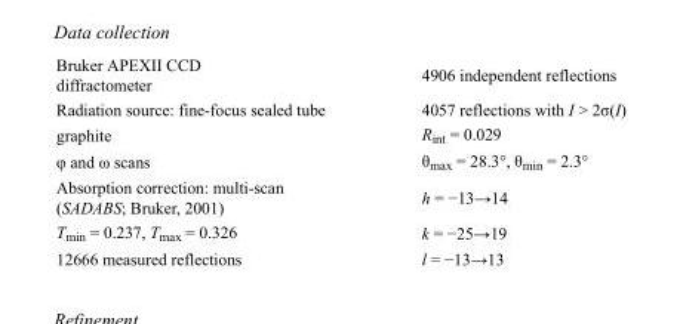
<table><tbody><tr><td>Bruker APEXII CCD diffractometer</td><td>4906 independent reflections</td></tr><tr><td>Radiation source: fine-focus sealed tube</td><td>4057 reflections with I &gt; 2σ(I)</td></tr><tr><td>graphite</td><td>R<sub>int</sub> = 0.029</td></tr><tr><td>φ and ω scans</td><td>θ<sub>max</sub> = 28.3°, θ<sub>min</sub> = 2.3°</td></tr><tr><td>Absorption correction: multi-scan (SADABS; Bruker, 2001)</td><td>h = −13→14</td></tr><tr><td>T<sub>min</sub> = 0.237, T<sub>max</sub> = 0.326</td><td>k = −25→19</td></tr><tr><td>12666 measured reflections</td><td>l = −13→13</td></tr></tbody></table>